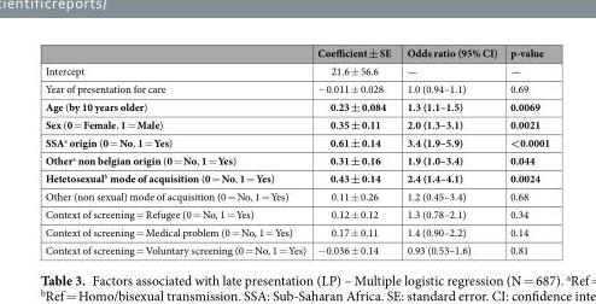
<table><thead><tr><td></td><td>Coefficient ± SE</td><td>Odds ratio (95% CI)</td><td>p-value</td></tr></thead><tbody><tr><td>Intercept</td><td>21.6 ± 56.6</td><td>—</td><td>—</td></tr><tr><td>Year of presentation for care</td><td>−0.011 ± 0.028</td><td>1.0 (0.94–1.1)</td><td>0.69</td></tr><tr><td>Age (by 10 years older)</td><td>0.23 ± 0.084</td><td>1.3 (1.1–1.5)</td><td>0.0069</td></tr><tr><td>Sex (0 = Female, 1 = Male)</td><td>0.35 ± 0.11</td><td>2.0 (1.3–3.1)</td><td>0.0021</td></tr><tr><td>SSA<sup>a</sup> origin (0 = No, 1 = Yes)</td><td>0.61 ± 0.14</td><td>3.4 (1.9–5.9)</td><td>&lt;0.0001</td></tr><tr><td>Other<sup>a</sup> non belgian origin (0 = No, 1 = Yes)</td><td>0.31 ± 0.16</td><td>1.9 (1.0–3.4)</td><td>0.044</td></tr><tr><td>Hetetosexual<sup>b</sup> mode of acquisition (0 = No, 1 = Yes)</td><td>0.43 ± 0.14</td><td>2.4 (1.4–4.1)</td><td>0.0024</td></tr><tr><td>Other (non sexual) mode of acquisition (0 = No, 1 = Yes)</td><td>0.11 ± 0.26</td><td>1.2 (0.45–3.4)</td><td>0.68</td></tr><tr><td>Context of screening = Refugee (0 = No, 1 = Yes)</td><td>0.12 ± 0.12</td><td>1.3 (0.78–2.1)</td><td>0.34</td></tr><tr><td>Context of screening = Medical problem (0 = No, 1 = Yes)</td><td>0.17 ± 0.11</td><td>1.4 (0.90–2.2)</td><td>0.14</td></tr><tr><td>Context of screening = Voluntary screening (0 = No, 1 = Yes)</td><td>−0.036 ± 0.14</td><td>0.93 (0.53–1.6)</td><td>0.81</td></tr></tbody></table>